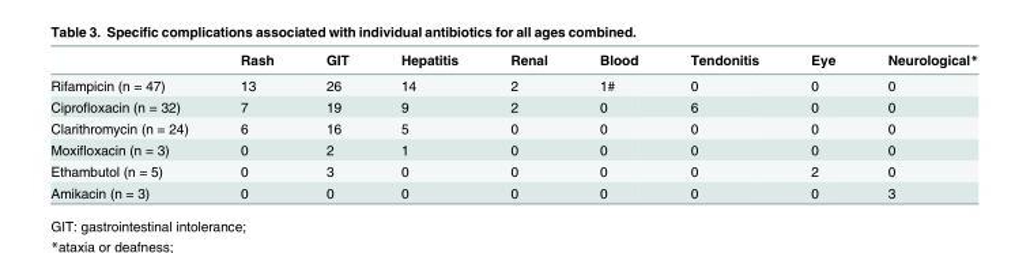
<table><thead><tr><td></td><td>Rash</td><td>GIT</td><td>Hepatitis</td><td>Renal</td><td>Blood</td><td>Tendonitis</td><td>Eye</td><td>Neurological*</td></tr></thead><tbody><tr><td>Rifampicin (n = 47)</td><td>13</td><td>26</td><td>14</td><td>2</td><td>1#</td><td>0</td><td>0</td><td>0</td></tr><tr><td>Ciprofloxacin (n = 32)</td><td>7</td><td>19</td><td>9</td><td>2</td><td>0</td><td>6</td><td>0</td><td>0</td></tr><tr><td>Clarithromycin (n = 24)</td><td>6</td><td>16</td><td>5</td><td>0</td><td>0</td><td>0</td><td>0</td><td>0</td></tr><tr><td>Moxifloxacin (n = 3)</td><td>0</td><td>2</td><td>1</td><td>0</td><td>0</td><td>0</td><td>0</td><td>0</td></tr><tr><td>Ethambutol (n = 5)</td><td>0</td><td>3</td><td>0</td><td>0</td><td>0</td><td>0</td><td>2</td><td>0</td></tr><tr><td>Amikacin (n = 3)</td><td>0</td><td>0</td><td>0</td><td>0</td><td>0</td><td>0</td><td>0</td><td>3</td></tr></tbody></table>